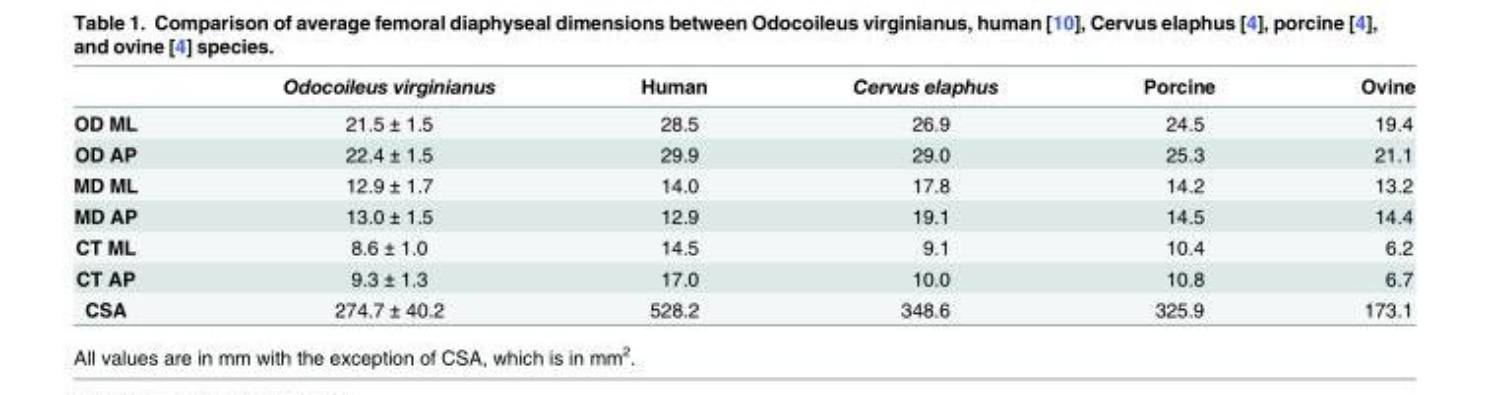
<table><thead><tr><td></td><td>Odocoileus virginianus</td><td>Human</td><td>Cervus elaphus</td><td>Porcine</td><td>Ovine</td></tr></thead><tbody><tr><td>OD ML</td><td>21.5 ± 1.5</td><td>28.5</td><td>26.9</td><td>24.5</td><td>19.4</td></tr><tr><td>OD AP</td><td>22.4 ± 1.5</td><td>29.9</td><td>29.0</td><td>25.3</td><td>21.1</td></tr><tr><td>MD ML</td><td>12.9 ± 1.7</td><td>14.0</td><td>17.8</td><td>14.2</td><td>13.2</td></tr><tr><td>MD AP</td><td>13.0 ± 1.5</td><td>12.9</td><td>19.1</td><td>14.5</td><td>14.4</td></tr><tr><td>CT ML</td><td>8.6 ± 1.0</td><td>14.5</td><td>9.1</td><td>10.4</td><td>6.2</td></tr><tr><td>CT AP</td><td>9.3 ± 1.3</td><td>17.0</td><td>10.0</td><td>10.8</td><td>6.7</td></tr><tr><td>CSA</td><td>274.7 ± 40.2</td><td>528.2</td><td>348.6</td><td>325.9</td><td>173.1</td></tr></tbody></table>